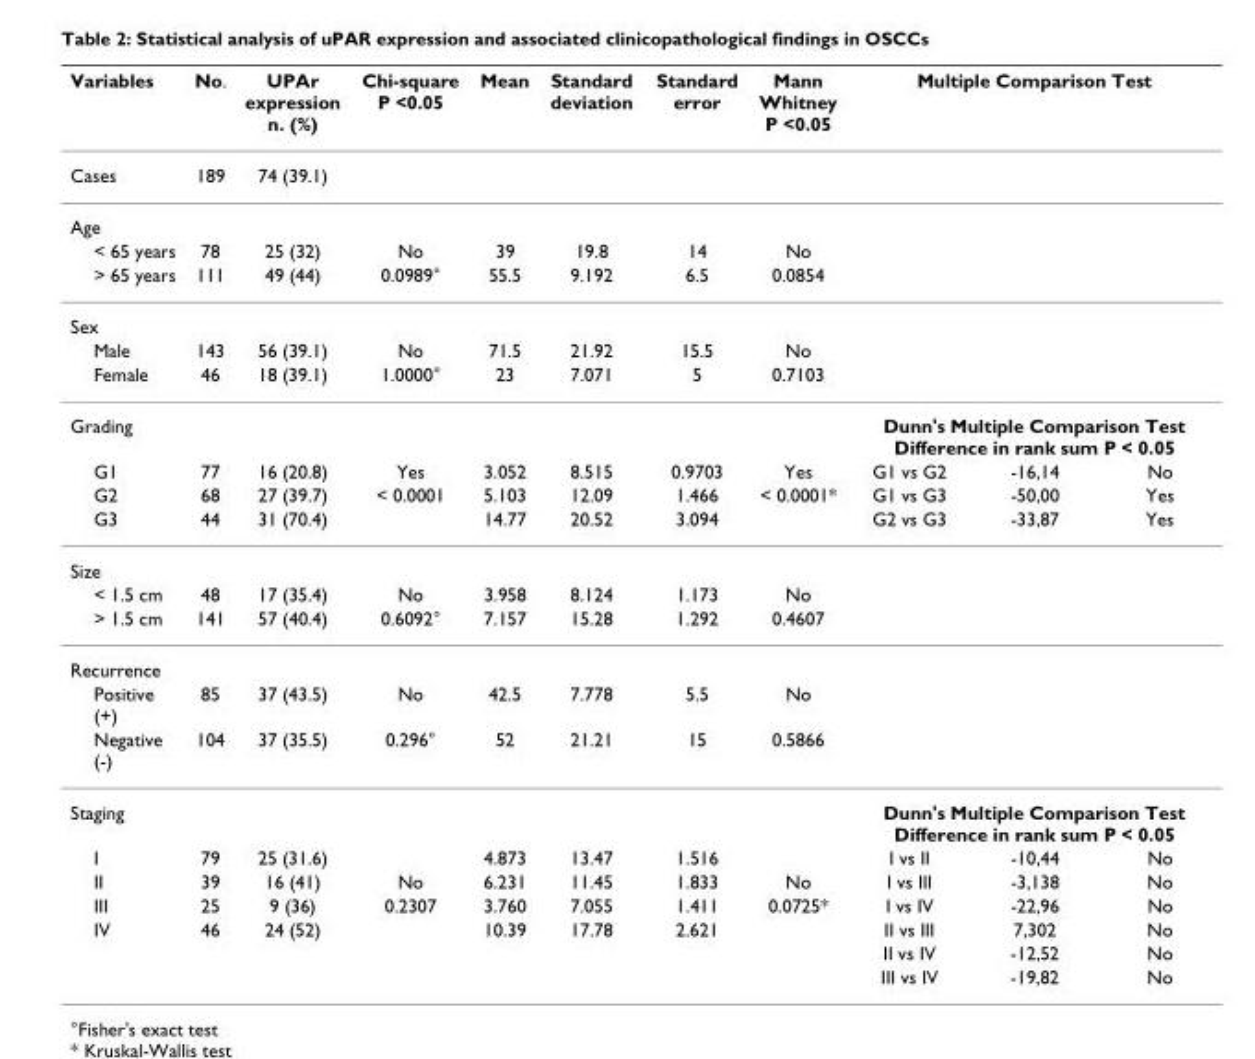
<table><thead><tr><td rowspan="2">Variables Cases</td><td rowspan="2">No. 189</td><td rowspan="2">UPAr expression n. (%) 74 (39.1)</td><td rowspan="2">Chi-square P &lt;0.05</td><td rowspan="2">Mean</td><td rowspan="2">Standard deviation</td><td rowspan="2">Standard error</td><td rowspan="2">Mann Whitney P &lt;0.05</td><td colspan="3">Multiple Comparison Test</td></tr><tr><td></td><td></td><td></td></tr></thead><tbody><tr><td colspan="11">Age</td></tr><tr><td>&lt; 65 years</td><td>78</td><td>25 (32)</td><td>No</td><td>39</td><td>19.8</td><td>14</td><td>No</td><td></td><td></td><td></td></tr><tr><td>&gt; 65 years</td><td>111</td><td>49 (44)</td><td>0.0989°</td><td>55.5</td><td>9.192</td><td>6.5</td><td>0.0854</td><td></td><td></td><td></td></tr><tr><td colspan="11">Sex</td></tr><tr><td>Male</td><td>143</td><td>56 (39.1)</td><td>No</td><td>71.5</td><td>21.92</td><td>15.5</td><td>No</td><td></td><td></td><td></td></tr><tr><td>Female</td><td>46</td><td>18 (39.1)</td><td>1.0000°</td><td>23</td><td>7.071</td><td>5</td><td>0.7103</td><td></td><td></td><td></td></tr><tr><td>Grading</td><td></td><td></td><td></td><td></td><td></td><td></td><td></td><td colspan="3">Dunn&#x27;s Multiple Comparison Test Difference in rank sum P &lt; 0.05</td></tr><tr><td>G1</td><td>77</td><td>16 (20.8)</td><td>Yes</td><td>3.052</td><td>8.515</td><td>0.9703</td><td>Yes</td><td>G1 vs G2</td><td>-16,14</td><td>No</td></tr><tr><td>G2</td><td>68</td><td>27 (39.7)</td><td>&lt; 0.0001</td><td>5.103</td><td>12.09</td><td>1.466</td><td>&lt; 0.0001*</td><td>G1 vs G3</td><td>-50,00</td><td>Yes</td></tr><tr><td>G3</td><td>44</td><td>31 (70.4)</td><td></td><td>14.77</td><td>20.52</td><td>3.094</td><td></td><td>G2 vs G3</td><td>-33,87</td><td>Yes</td></tr><tr><td colspan="11">Size</td></tr><tr><td>&lt; 1.5 cm</td><td>48</td><td>17 (35.4)</td><td>No</td><td>3.958</td><td>8.124</td><td>1.173</td><td>No</td><td></td><td></td><td></td></tr><tr><td>&gt; 1.5 cm</td><td>141</td><td>57 (40.4)</td><td>0.6092°</td><td>7.157</td><td>15.28</td><td>1.292</td><td>0.4607</td><td></td><td></td><td></td></tr><tr><td colspan="11">Recurrence</td></tr><tr><td>Positive (+)</td><td>85</td><td>37 (43.5)</td><td>No</td><td>42.5</td><td>7.778</td><td>5.5</td><td>No</td><td></td><td></td><td></td></tr><tr><td>Negative (-)</td><td>104</td><td>37 (35.5)</td><td>0.296°</td><td>52</td><td>21.21</td><td>15</td><td>0.5866</td><td></td><td></td><td></td></tr><tr><td>Staging</td><td></td><td></td><td></td><td></td><td></td><td></td><td></td><td colspan="3">Dunn&#x27;s Multiple Comparison Test Difference in rank sum P &lt; 0.05</td></tr><tr><td>I</td><td>79</td><td>25 (31.6)</td><td></td><td>4.873</td><td>13.47</td><td>1.516</td><td></td><td>I vs II</td><td>-10,44</td><td>No</td></tr><tr><td>II</td><td>39</td><td>16 (41)</td><td>No</td><td>6.231</td><td>11.45</td><td>1.833</td><td>No</td><td>I vs III</td><td>-3,138</td><td>No</td></tr><tr><td>III</td><td>25</td><td>9 (36)</td><td>0.2307</td><td>3.760</td><td>7.055</td><td>1.411</td><td>0.0725*</td><td>I vs IV</td><td>-22,96</td><td>No</td></tr><tr><td rowspan="3">IV</td><td>46</td><td>24 (52)</td><td></td><td>10.39</td><td>17.78</td><td>2.621</td><td></td><td>II vs III</td><td>7,302</td><td>No</td></tr><tr><td></td><td></td><td></td><td></td><td></td><td></td><td></td><td>II vs IV</td><td>-12,52</td><td>No</td></tr><tr><td></td><td></td><td></td><td></td><td></td><td></td><td></td><td>III vs IV</td><td>-19,82</td><td>No</td></tr></tbody></table>